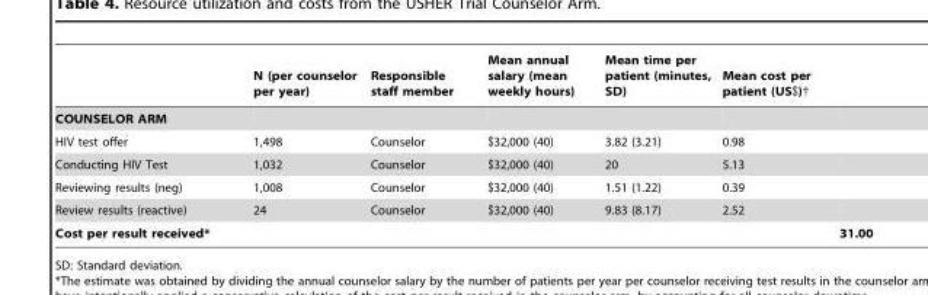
<table><thead><tr><td></td><td>N (per counselor per year)</td><td>Responsible staff member</td><td>Mean annual salary (mean weekly hours)</td><td>Mean time per patient (minutes, SD)</td><td>Mean cost per patient (US$)†</td><td></td></tr></thead><tbody><tr><td colspan="7">COUNSELOR ARM</td></tr><tr><td>HIV test offer</td><td>1,498</td><td>Counselor</td><td>$32,000 (40)</td><td>3.82 (3.21)</td><td>0.98</td><td></td></tr><tr><td>Conducting HIV Test</td><td>1,032</td><td>Counselor</td><td>$32,000 (40)</td><td>20</td><td>5.13</td><td></td></tr><tr><td>Reviewing results (neg)</td><td>1,008</td><td>Counselor</td><td>$32,000 (40)</td><td>1.51 (1.22)</td><td>0.39</td><td></td></tr><tr><td>Review results (reactive)</td><td>24</td><td>Counselor</td><td>$32,000 (40)</td><td>9.83 (8.17)</td><td>2.52</td><td></td></tr><tr><td>Cost per result received*</td><td></td><td></td><td></td><td></td><td></td><td>31.00</td></tr></tbody></table>